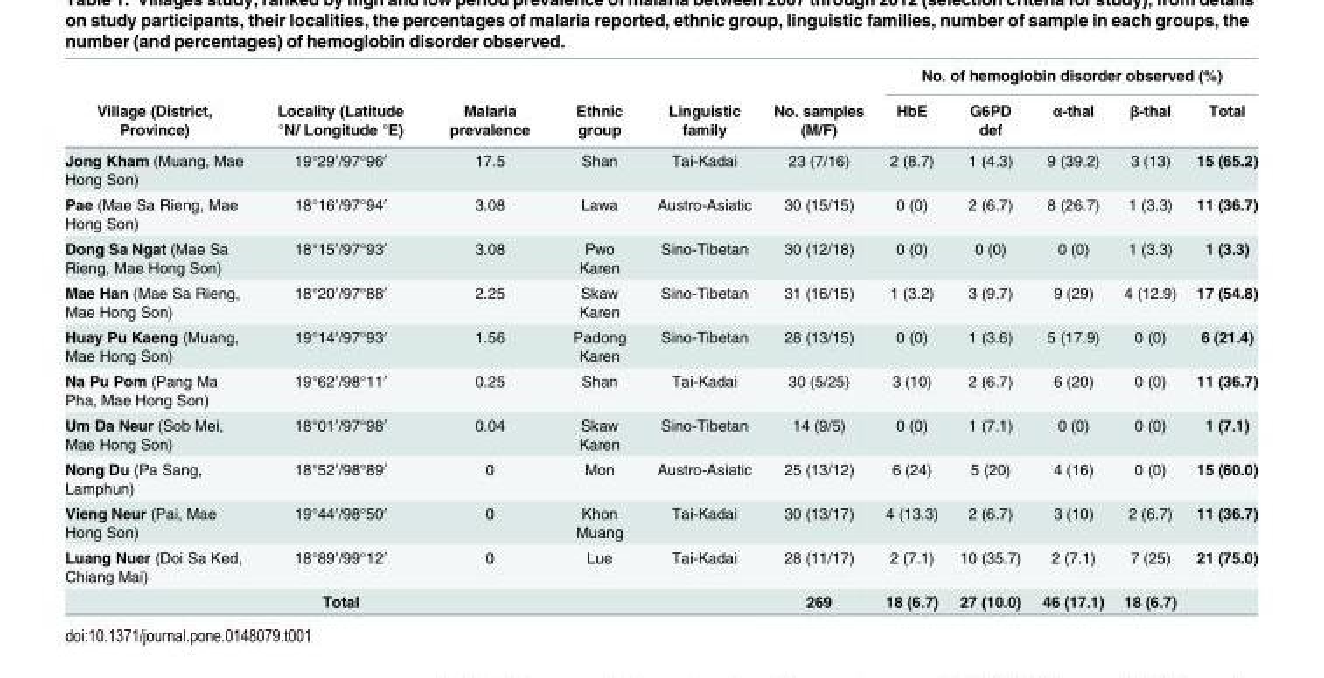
<table><thead><tr><td rowspan="2">Village (District, Province)</td><td rowspan="2">Locality (Latitude °N/ Longitude °E)</td><td rowspan="2">Malaria prevalence</td><td rowspan="2">Ethnic group</td><td rowspan="2">Linguistic family</td><td rowspan="2">No. samples (M/F)</td><td colspan="5">No. of hemoglobin disorder observed (%)</td></tr><tr><td>HbE</td><td>G6PD def</td><td>α-thal</td><td>β-thal</td><td>Total</td></tr></thead><tbody><tr><td>Jong Kham (Muang, Mae Hong Son)</td><td>19°29′/97°96′</td><td>17.5</td><td>Shan</td><td>Tai-Kadai</td><td>23 (7/16)</td><td>2 (8.7)</td><td>1 (4.3)</td><td>9 (39.2)</td><td>3 (13)</td><td>15 (65.2)</td></tr><tr><td>Pae (Mae Sa Rieng, Mae Hong Son)</td><td>18°16′/97°94′</td><td>3.08</td><td>Lawa</td><td>Austro-Asiatic</td><td>30 (15/15)</td><td>0 (0)</td><td>2 (6.7)</td><td>8 (26.7)</td><td>1 (3.3)</td><td>11 (36.7)</td></tr><tr><td>Dong Sa Ngat (Mae Sa Rieng, Mae Hong Son)</td><td>18°15′/97°93′</td><td>3.08</td><td>Pwo Karen</td><td>Sino-Tibetan</td><td>30 (12/18)</td><td>0 (0)</td><td>0 (0)</td><td>0 (0)</td><td>1 (3.3)</td><td>1 (3.3)</td></tr><tr><td>Mae Han (Mae Sa Rieng, Mae Hong Son)</td><td>18°20′/97°88′</td><td>2.25</td><td>Skaw Karen</td><td>Sino-Tibetan</td><td>31 (16/15)</td><td>1 (3.2)</td><td>3 (9.7)</td><td>9 (29)</td><td>4 (12.9)</td><td>17 (54.8)</td></tr><tr><td>Huay Pu Kaeng (Muang, Mae Hong Son)</td><td>19°14′/97°93′</td><td>1.56</td><td>Padong Karen</td><td>Sino-Tibetan</td><td>28 (13/15)</td><td>0 (0)</td><td>1 (3.6)</td><td>5 (17.9)</td><td>0 (0)</td><td>6 (21.4)</td></tr><tr><td>Na Pu Pom (Pang Ma Pha, Mae Hong Son)</td><td>19°62′/98°11′</td><td>0.25</td><td>Shan</td><td>Tai-Kadai</td><td>30 (5/25)</td><td>3 (10)</td><td>2 (6.7)</td><td>6 (20)</td><td>0 (0)</td><td>11 (36.7)</td></tr><tr><td>Um Da Neur (Sob Mei, Mae Hong Son)</td><td>18°01′/97°98′</td><td>0.04</td><td>Skaw Karen</td><td>Sino-Tibetan</td><td>14 (9/5)</td><td>0 (0)</td><td>1 (7.1)</td><td>0 (0)</td><td>0 (0)</td><td>1 (7.1)</td></tr><tr><td>Nong Du (Pa Sang, Lamphun)</td><td>18°52′/98°89′</td><td>0</td><td>Mon</td><td>Austro-Asiatic</td><td>25 (13/12)</td><td>6 (24)</td><td>5 (20)</td><td>4 (16)</td><td>0 (0)</td><td>15 (60.0)</td></tr><tr><td>Vieng Neur (Pai, Mae Hong Son)</td><td>19°44′/98°50′</td><td>0</td><td>Khon Muang</td><td>Tai-Kadai</td><td>30 (13/17)</td><td>4 (13.3)</td><td>2 (6.7)</td><td>3 (10)</td><td>2 (6.7)</td><td>11 (36.7)</td></tr><tr><td rowspan="2">Luang Nuer (Doi Sa Ked, Chiang Mai)</td><td>18°89′/99°12′</td><td>0</td><td>Lue</td><td>Tai-Kadai</td><td>28 (11/17)</td><td>2 (7.1)</td><td>10 (35.7)</td><td>2 (7.1)</td><td>7 (25)</td><td>21 (75.0)</td></tr><tr><td>Total</td><td></td><td></td><td></td><td>269</td><td>18 (6.7)</td><td>27 (10.0)</td><td>46 (17.1)</td><td>18 (6.7)</td><td></td></tr></tbody></table>